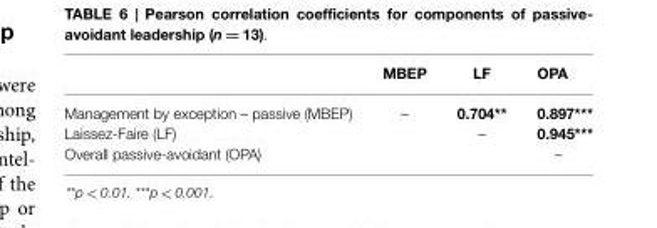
<table><thead><tr><td></td><td>MBEP</td><td>LF</td><td>OPA</td></tr></thead><tbody><tr><td>Management by exception – passive (MBEP)</td><td>–</td><td>0.704**</td><td>0.897***</td></tr><tr><td>Laissez-Faire (LF)</td><td></td><td>–</td><td>0.945***</td></tr><tr><td>Overall passive-avoidant (OPA)</td><td></td><td></td><td>–</td></tr></tbody></table>